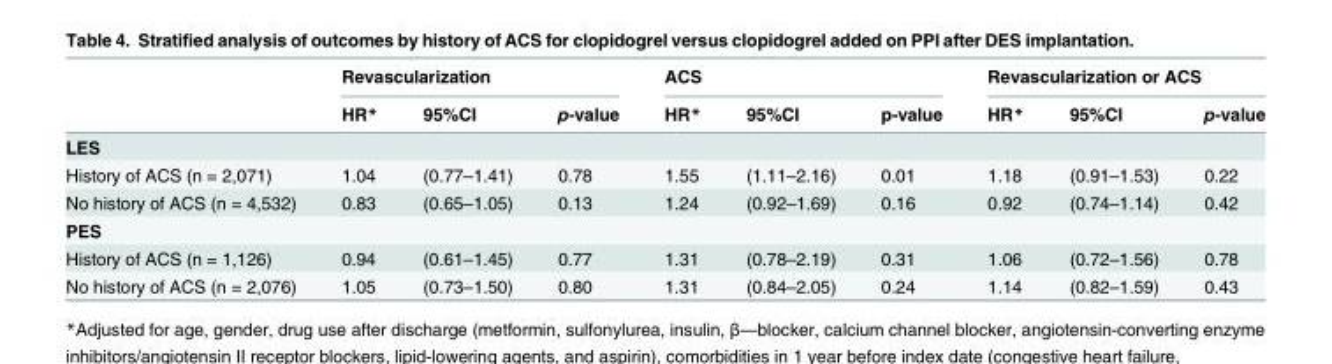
<table><thead><tr><td rowspan="2"></td><td colspan="3">Revascularization</td><td colspan="3">ACS</td><td colspan="3">Revascularization or ACS</td></tr><tr><td>HR*</td><td>95%CI</td><td>p-value</td><td>HR*</td><td>95%CI</td><td>p-value</td><td>HR*</td><td>95%CI</td><td>p-value</td></tr></thead><tbody><tr><td colspan="10">LES</td></tr><tr><td>History of ACS (n = 2,071)</td><td>1.04</td><td>(0.77–1.41)</td><td>0.78</td><td>1.55</td><td>(1.11–2.16)</td><td>0.01</td><td>1.18</td><td>(0.91–1.53)</td><td>0.22</td></tr><tr><td>No history of ACS (n = 4,532)</td><td>0.83</td><td>(0.65–1.05)</td><td>0.13</td><td>1.24</td><td>(0.92–1.69)</td><td>0.16</td><td>0.92</td><td>(0.74–1.14)</td><td>0.42</td></tr><tr><td colspan="10">PES</td></tr><tr><td>History of ACS (n = 1,126)</td><td>0.94</td><td>(0.61–1.45)</td><td>0.77</td><td>1.31</td><td>(0.78–2.19)</td><td>0.31</td><td>1.06</td><td>(0.72–1.56)</td><td>0.78</td></tr><tr><td>No history of ACS (n = 2,076)</td><td>1.05</td><td>(0.73–1.50)</td><td>0.80</td><td>1.31</td><td>(0.84–2.05)</td><td>0.24</td><td>1.14</td><td>(0.82–1.59)</td><td>0.43</td></tr></tbody></table>